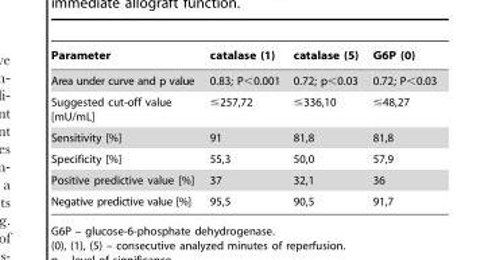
<table><thead><tr><td>Parameter</td><td>catalase (1)</td><td>catalase (5)</td><td>G6P (0)</td></tr></thead><tbody><tr><td>Area under curve and p value</td><td>0.83; P&lt;0.001</td><td>0.72; p&lt;0.03</td><td>0.72; P&lt;0.03</td></tr><tr><td>Suggested cut-off value [mU/mL]</td><td>≤257,72</td><td>≤336,10</td><td>≤48,27</td></tr><tr><td>Sensitivity [%]</td><td>91</td><td>81,8</td><td>81,8</td></tr><tr><td>Specificity [%]</td><td>55,3</td><td>50,0</td><td>57,9</td></tr><tr><td>Positive predictive value [%]</td><td>37</td><td>32,1</td><td>36</td></tr><tr><td>Negative predictive value [%]</td><td>95,5</td><td>90,5</td><td>91,7</td></tr></tbody></table>